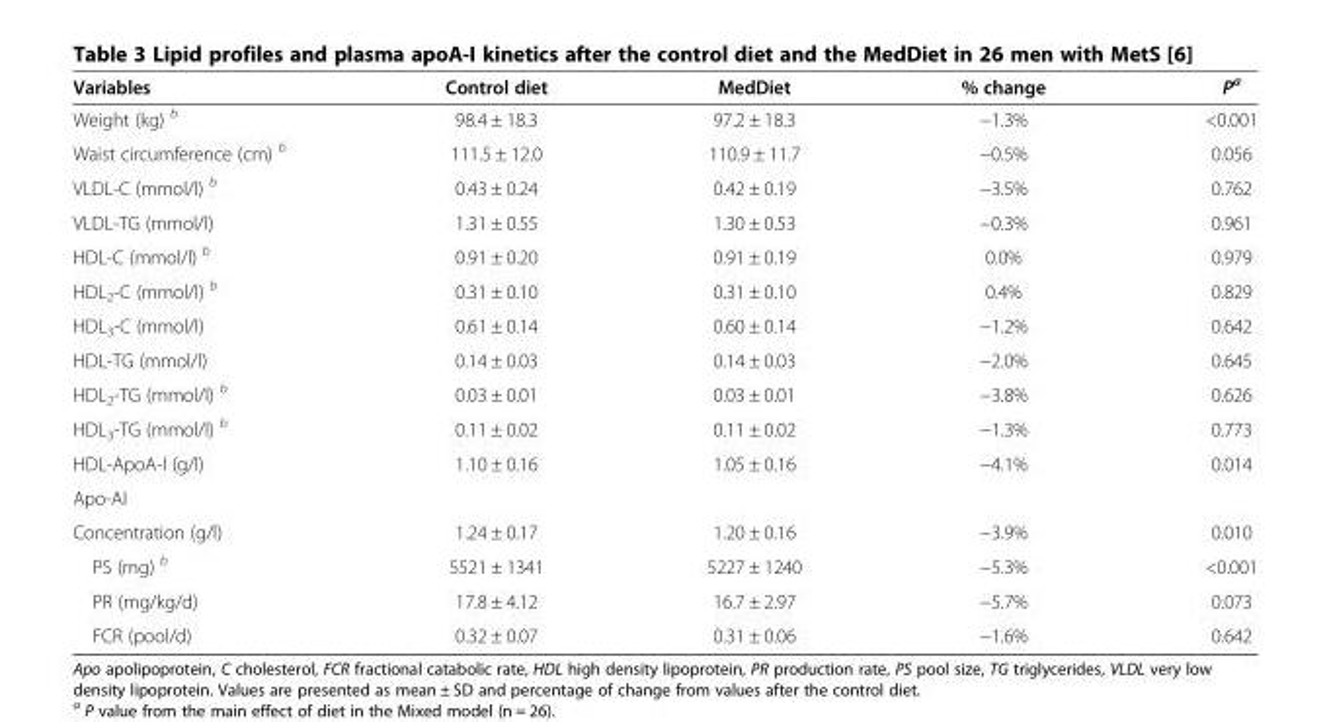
<table><thead><tr><td>Variables</td><td>Control diet</td><td>MedDiet</td><td>% change</td><td>P<sup>a</sup></td></tr></thead><tbody><tr><td>Weight (kg) <sup>b</sup></td><td>98.4 ± 18.3</td><td>97.2 ± 18.3</td><td>−1.3%</td><td>&lt;0.001</td></tr><tr><td>Waist circumference (cm) <sup>b</sup></td><td>111.5 ± 12.0</td><td>110.9 ± 11.7</td><td>−0.5%</td><td>0.056</td></tr><tr><td>VLDL-C (mmol/l) <sup>b</sup></td><td>0.43 ± 0.24</td><td>0.42 ± 0.19</td><td>−3.5%</td><td>0.762</td></tr><tr><td>VLDL-TG (mmol/l)</td><td>1.31 ± 0.55</td><td>1.30 ± 0.53</td><td>−0.3%</td><td>0.961</td></tr><tr><td>HDL-C (mmol/l) <sup>b</sup></td><td>0.91 ± 0.20</td><td>0.91 ± 0.19</td><td>0.0%</td><td>0.979</td></tr><tr><td>HDL<sub>2</sub>-C (mmol/l) <sup>b</sup></td><td>0.31 ± 0.10</td><td>0.31 ± 0.10</td><td>0.4%</td><td>0.829</td></tr><tr><td>HDL<sub>3</sub>-C (mmol/l)</td><td>0.61 ± 0.14</td><td>0.60 ± 0.14</td><td>−1.2%</td><td>0.642</td></tr><tr><td>HDL-TG (mmol/l)</td><td>0.14 ± 0.03</td><td>0.14 ± 0.03</td><td>−2.0%</td><td>0.645</td></tr><tr><td>HDL<sub>2</sub>-TG (mmol/l) <sup>b</sup></td><td>0.03 ± 0.01</td><td>0.03 ± 0.01</td><td>−3.8%</td><td>0.626</td></tr><tr><td>HDL<sub>3</sub>-TG (mmol/l) <sup>b</sup></td><td>0.11 ± 0.02</td><td>0.11 ± 0.02</td><td>−1.3%</td><td>0.773</td></tr><tr><td>HDL-ApoA-I (g/l)</td><td>1.10 ± 0.16</td><td>1.05 ± 0.16</td><td>−4.1%</td><td>0.014</td></tr><tr><td colspan="5">Apo-AI</td></tr><tr><td>Concentration (g/l)</td><td>1.24 ± 0.17</td><td>1.20 ± 0.16</td><td>−3.9%</td><td>0.010</td></tr><tr><td>PS (mg) <sup>b</sup></td><td>5521 ± 1341</td><td>5227 ± 1240</td><td>−5.3%</td><td>&lt;0.001</td></tr><tr><td>PR (mg/kg/d)</td><td>17.8 ± 4.12</td><td>16.7 ± 2.97</td><td>−5.7%</td><td>0.073</td></tr><tr><td>FCR (pool/d)</td><td>0.32 ± 0.07</td><td>0.31 ± 0.06</td><td>−1.6%</td><td>0.642</td></tr></tbody></table>